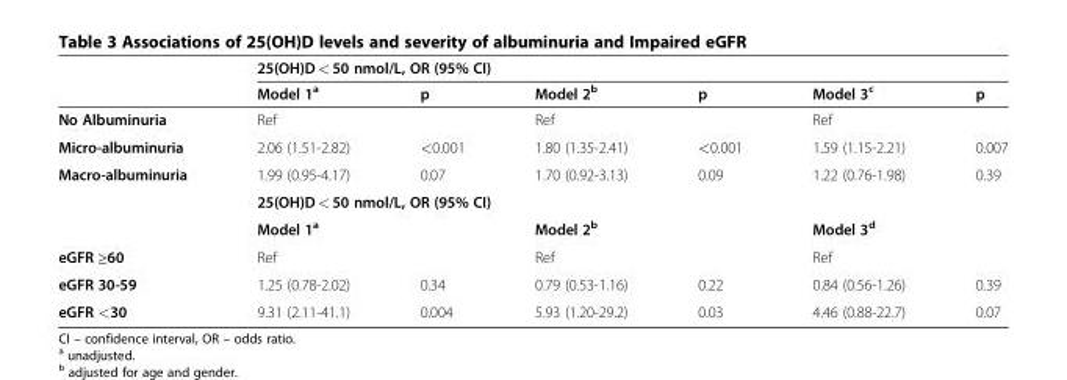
<table><thead><tr><td rowspan="2"></td><td colspan="6">25(OH)D &lt; 50 nmol/L, OR (95% CI)</td></tr><tr><td>Model 1<sup>a</sup></td><td>p</td><td>Model 2<sup>b</sup></td><td>p</td><td>Model 3<sup>c</sup></td><td>p</td></tr></thead><tbody><tr><td>No Albuminuria</td><td>Ref</td><td></td><td>Ref</td><td></td><td>Ref</td><td></td></tr><tr><td>Micro-albuminuria</td><td>2.06 (1.51-2.82)</td><td>&lt;0.001</td><td>1.80 (1.35-2.41)</td><td>&lt;0.001</td><td>1.59 (1.15-2.21)</td><td>0.007</td></tr><tr><td rowspan="3">Macro-albuminuria</td><td>1.99 (0.95-4.17)</td><td>0.07</td><td>1.70 (0.92-3.13)</td><td>0.09</td><td>1.22 (0.76-1.98)</td><td>0.39</td></tr><tr><td colspan="6">25(OH)D &lt; 50 nmol/L, OR (95% CI)</td></tr><tr><td>Model 1<sup>a</sup></td><td></td><td>Model 2<sup>b</sup></td><td></td><td>Model 3<sup>d</sup></td><td></td></tr><tr><td>eGFR ≥60</td><td>Ref</td><td></td><td>Ref</td><td></td><td>Ref</td><td></td></tr><tr><td>eGFR 30-59</td><td>1.25 (0.78-2.02)</td><td>0.34</td><td>0.79 (0.53-1.16)</td><td>0.22</td><td>0.84 (0.56-1.26)</td><td>0.39</td></tr><tr><td>eGFR &lt;30</td><td>9.31 (2.11-41.1)</td><td>0.004</td><td>5.93 (1.20-29.2)</td><td>0.03</td><td>4.46 (0.88-22.7)</td><td>0.07</td></tr></tbody></table>